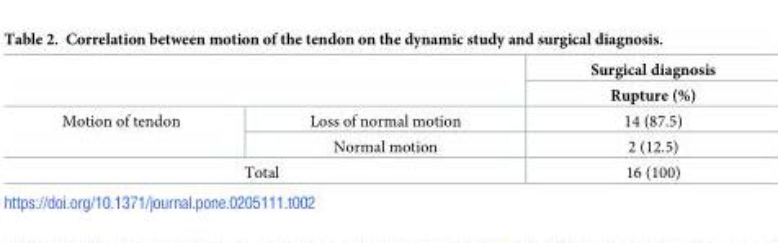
<table><thead><tr><td rowspan="2"></td><td rowspan="2"></td><td rowspan="2">Surgical diagnosis Rupture (%)</td></tr><tr></tr></thead><tbody><tr><td rowspan="2">Motion of tendon</td><td>Loss of normal motion</td><td>14 (87.5)</td></tr><tr><td>Normal motion</td><td>2 (12.5)</td></tr><tr><td colspan="2">Total</td><td>16 (100)</td></tr></tbody></table>